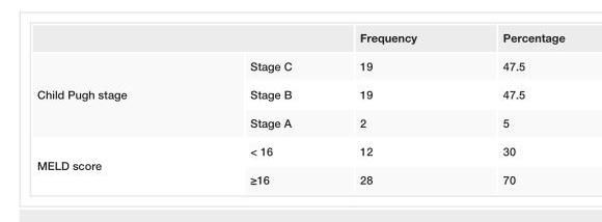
<table><thead><tr><td></td><td></td><td>Frequency</td><td>Percentage</td></tr></thead><tbody><tr><td rowspan="3">Child Pugh stage</td><td>Stage C</td><td>19</td><td>47.5</td></tr><tr><td>Stage B</td><td>19</td><td>47.5</td></tr><tr><td>Stage A</td><td>2</td><td>5</td></tr><tr><td rowspan="2">MELD score</td><td>&lt; 16</td><td>12</td><td>30</td></tr><tr><td>≥16</td><td>28</td><td>70</td></tr></tbody></table>